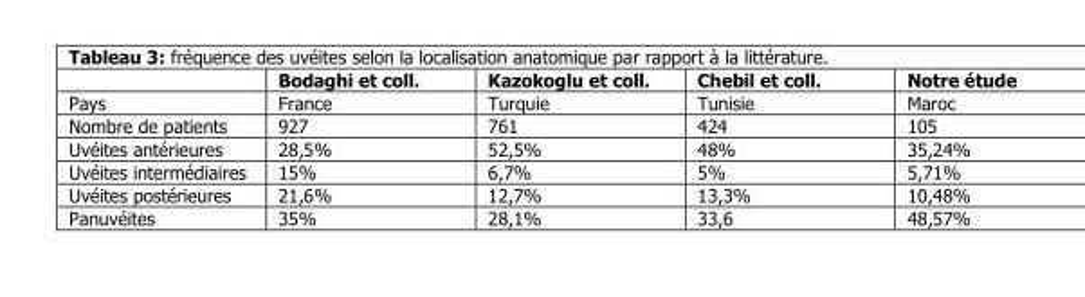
<table><thead><tr><td></td><td>Bodaghi et coll.</td><td>Kazokoglu et coll.</td><td>Chebil et coll.</td><td>Notre étude</td></tr></thead><tbody><tr><td>Pays</td><td>France</td><td>Turquie</td><td>Tunisie</td><td>Maroc</td></tr><tr><td>Nombre de patients</td><td>927</td><td>761</td><td>424</td><td>105</td></tr><tr><td>Uvéites antérieures</td><td>28,5%</td><td>52,5%</td><td>48%</td><td>35,24%</td></tr><tr><td>Uvéites intermédiaires</td><td>15%</td><td>6,7%</td><td>5%</td><td>5,71%</td></tr><tr><td>Uvéites postérieures</td><td>21,6%</td><td>12,7%</td><td>13,3%</td><td>10,48%</td></tr><tr><td>Panuvéites</td><td>35%</td><td>28,1%</td><td>33,6</td><td>48,57%</td></tr></tbody></table>